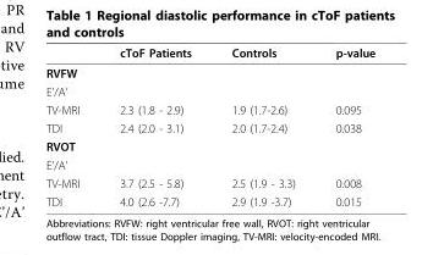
<table><thead><tr><td></td><td>cToF Patients</td><td>Controls</td><td>p-value</td></tr></thead><tbody><tr><td colspan="4">RVFW</td></tr><tr><td colspan="4">E’/A’</td></tr><tr><td>TV-MRI</td><td>2.3 (1.8 - 2.9)</td><td>1.9 (1.7-2.6)</td><td>0.095</td></tr><tr><td>TDI</td><td>2.4 (2.0 - 3.1)</td><td>2.0 (1.7-2.4)</td><td>0.038</td></tr><tr><td colspan="4">RVOT</td></tr><tr><td colspan="4">E’/A’</td></tr><tr><td>TV-MRI</td><td>3.7 (2.5 - 5.8)</td><td>2.5 (1.9 - 3.3)</td><td>0.008</td></tr><tr><td>TDI</td><td>4.0 (2.6 -7.7)</td><td>2.9 (1.9 -3.7)</td><td>0.015</td></tr></tbody></table>